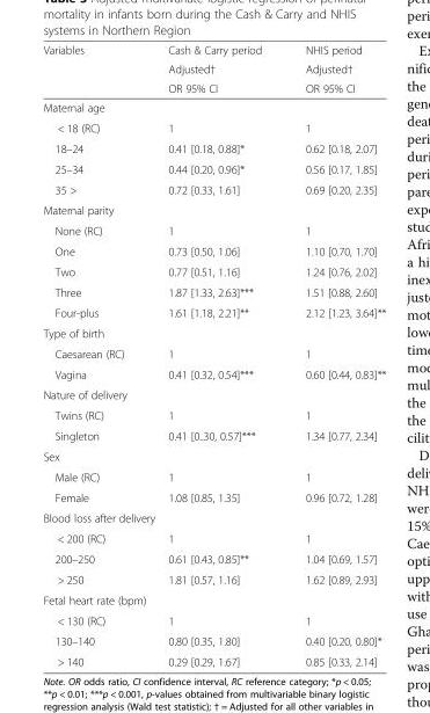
<table><thead><tr><td rowspan="3">Variables</td><td rowspan="3">Cash &amp; Carry period Adjusted† OR 95% CI</td><td rowspan="3">NHIS period Adjusted† OR 95% CI</td></tr><tr></tr><tr></tr></thead><tbody><tr><td colspan="3">Maternal age</td></tr><tr><td>&lt; 18 (RC)</td><td>1</td><td>1</td></tr><tr><td>18–24</td><td>0.41 [0.18, 0.88]*</td><td>0.62 [0.18, 2.07]</td></tr><tr><td>25–34</td><td>0.44 [0.20, 0.96]*</td><td>0.56 [0.17, 1.85]</td></tr><tr><td>35 &gt;</td><td>0.72 [0.33, 1.61]</td><td>0.69 [0.20, 2.35]</td></tr><tr><td colspan="3">Maternal parity</td></tr><tr><td>None (RC)</td><td>1</td><td>1</td></tr><tr><td>One</td><td>0.73 [0.50, 1.06]</td><td>1.10 [0.70, 1.70]</td></tr><tr><td>Two</td><td>0.77 [0.51, 1.16]</td><td>1.24 [0.76, 2.02]</td></tr><tr><td>Three</td><td>1.87 [1.33, 2.63]***</td><td>1.51 [0.88, 2.60]</td></tr><tr><td>Four-plus</td><td>1.61 [1.18, 2.21]**</td><td>2.12 [1.23, 3.64]**</td></tr><tr><td colspan="3">Type of birth</td></tr><tr><td>Caesarean (RC)</td><td>1</td><td>1</td></tr><tr><td>Vagina</td><td>0.41 [0.32, 0.54]***</td><td>0.60 [0.44, 0.83]**</td></tr><tr><td colspan="3">Nature of delivery</td></tr><tr><td>Twins (RC)</td><td>1</td><td>1</td></tr><tr><td>Singleton</td><td>0.41 [0..30, 0.57]***</td><td>1.34 [0.77, 2.34]</td></tr><tr><td colspan="3">Sex</td></tr><tr><td>Male (RC)</td><td>1</td><td>1</td></tr><tr><td>Female</td><td>1.08 [0.85, 1.35]</td><td>0.96 [0.72, 1.28]</td></tr><tr><td colspan="3">Blood loss after delivery</td></tr><tr><td>&lt; 200 (RC)</td><td>1</td><td>1</td></tr><tr><td>200–250</td><td>0.61 [0.43, 0.85]**</td><td>1.04 [0.69, 1.57]</td></tr><tr><td>&gt; 250</td><td>1.81 [0.57, 1.16]</td><td>1.62 [0.89, 2.93]</td></tr><tr><td colspan="3">Fetal heart rate (bpm)</td></tr><tr><td>&lt; 130 (RC)</td><td>1</td><td>1</td></tr><tr><td>130–140</td><td>0.80 [0.35, 1.80]</td><td>0.40 [0.20, 0.80]*</td></tr><tr><td>&gt; 140</td><td>0.29 [0.29, 1.67]</td><td>0.85 [0.33, 2.14]</td></tr></tbody></table>